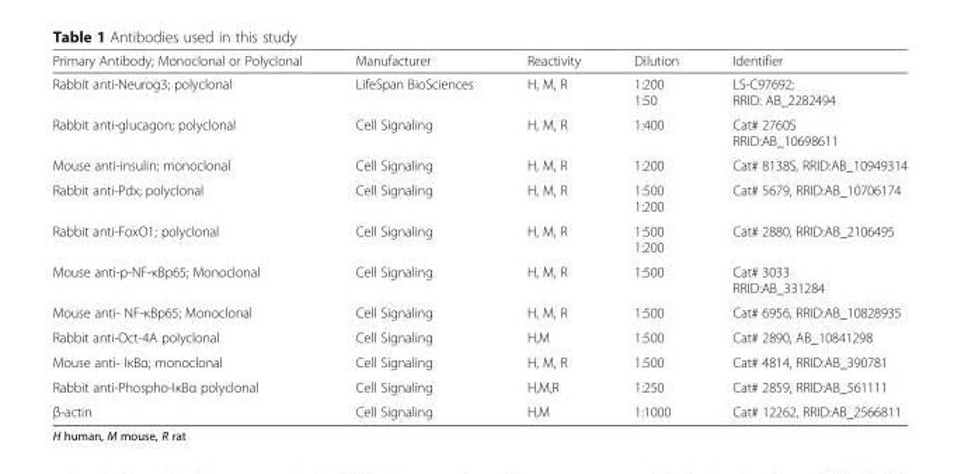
<table><thead><tr><td>Primary Antibody; Monoclonal or Polyclonal</td><td>Manufacturer</td><td>Reactivity</td><td>Dilution</td><td>Identifier</td></tr></thead><tbody><tr><td>Rabbit anti-Neurog3; polyclonal</td><td>LifeSpan BioSciences</td><td>H, M, R</td><td>1:200 1:50</td><td>LS-C97692; RRID: AB_2282494</td></tr><tr><td>Rabbit anti-glucagon; polyclonal</td><td>Cell Signaling</td><td>H, M, R</td><td>1:400</td><td>Cat# 2760S RRID:AB_10698611</td></tr><tr><td>Mouse anti-insulin; monoclonal</td><td>Cell Signaling</td><td>H, M, R</td><td>1:200</td><td>Cat# 8138S, RRID:AB_10949314</td></tr><tr><td>Rabbit anti-Pdx; polyclonal</td><td>Cell Signaling</td><td>H, M, R</td><td>1:500 1:200</td><td>Cat# 5679, RRID:AB_10706174</td></tr><tr><td>Rabbit anti-FoxO1; polyclonal</td><td>Cell Signaling</td><td>H, M, R</td><td>1:500 1:200</td><td>Cat# 2880, RRID:AB_2106495</td></tr><tr><td>Mouse anti-p-NF-κBp65; Monoclonal</td><td>Cell Signaling</td><td>H, M, R</td><td>1:500</td><td>Cat# 3033 RRID:AB_331284</td></tr><tr><td>Mouse anti- NF-κBp65; Monoclonal</td><td>Cell Signaling</td><td>H, M, R</td><td>1:500</td><td>Cat# 6956, RRID:AB_10828935</td></tr><tr><td>Rabbit anti-Oct-4A polyclonal</td><td>Cell Signaling</td><td>H,M</td><td>1:500</td><td>Cat# 2890, AB_10841298</td></tr><tr><td>Mouse anti- IκBα; monoclonal</td><td>Cell Signaling</td><td>H, M, R</td><td>1:500</td><td>Cat# 4814, RRID:AB_390781</td></tr><tr><td>Rabbit anti-Phospho-IκBα polyclonal</td><td>Cell Signaling</td><td>H,M,R</td><td>1:250</td><td>Cat# 2859, RRID:AB_561111</td></tr><tr><td>β-actin</td><td>Cell Signaling</td><td>H,M</td><td>1:1000</td><td>Cat# 12262, RRID:AB_2566811</td></tr></tbody></table>